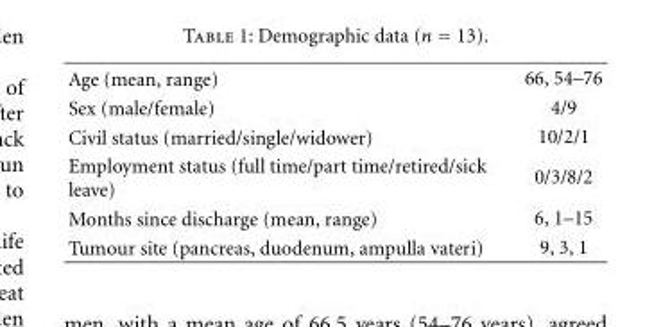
<table><tbody><tr><td>Age (mean, range)</td><td>66, 54–76</td></tr><tr><td>Sex (male/female)</td><td>4/9</td></tr><tr><td>Civil status (married/single/widower)</td><td>10/2/1</td></tr><tr><td>Employment status (full time/part time/retired/sick leave)</td><td>0/3/8/2</td></tr><tr><td>Months since discharge (mean, range)</td><td>6, 1–15</td></tr><tr><td>Tumour site (pancreas, duodenum, ampulla vateri)</td><td>9, 3, 1</td></tr></tbody></table>